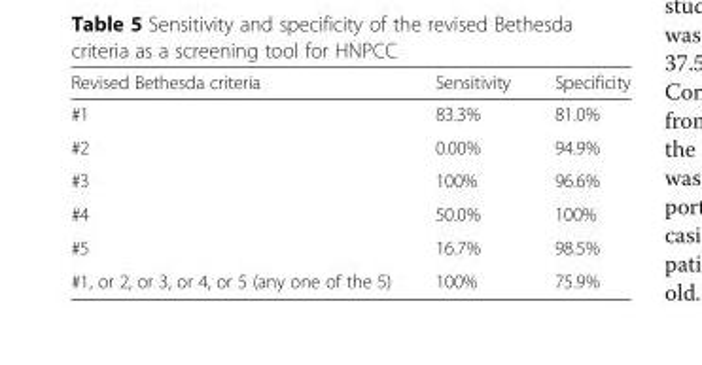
<table><thead><tr><td>Revised Bethesda criteria</td><td>Sensitivity</td><td>Specificity</td></tr></thead><tbody><tr><td>#1</td><td>83.3%</td><td>81.0%</td></tr><tr><td>#2</td><td>0.00%</td><td>94.9%</td></tr><tr><td>#3</td><td>100%</td><td>96.6%</td></tr><tr><td>#4</td><td>50.0%</td><td>100%</td></tr><tr><td>#5</td><td>16.7%</td><td>98.5%</td></tr><tr><td>#1, or 2, or 3, or 4, or 5 (any one of the 5)</td><td>100%</td><td>75.9%</td></tr></tbody></table>